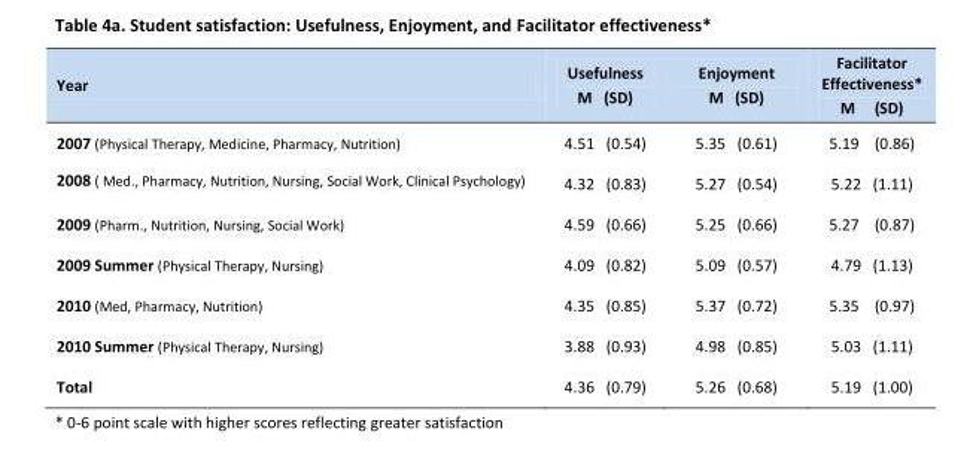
<table><thead><tr><td>Year</td><td>Usefulness M (SD)</td><td>Enjoyment M (SD)</td><td>Facilitator Effectiveness* M (SD)</td></tr></thead><tbody><tr><td>2007 (Physical Therapy, Medicine, Pharmacy, Nutrition)</td><td>4.51 (0.54)</td><td>5.35 (0.61)</td><td>5.19 (0.86)</td></tr><tr><td>2008 ( Med., Pharmacy, Nutrition, Nursing, Social Work, Clinical Psychology)</td><td>4.32 (0.83)</td><td>5.27 (0.54)</td><td>5.22 (1.11)</td></tr><tr><td>2009 (Pharm., Nutrition, Nursing, Social Work)</td><td>4.59 (0.66)</td><td>5.25 (0.66)</td><td>5.27 (0.87)</td></tr><tr><td>2009 Summer (Physical Therapy, Nursing)</td><td>4.09 (0.82)</td><td>5.09 (0.57)</td><td>4.79 (1.13)</td></tr><tr><td>2010 (Med, Pharmacy, Nutrition)</td><td>4.35 (0.85)</td><td>5.37 (0.72)</td><td>5.35 (0.97)</td></tr><tr><td>2010 Summer (Physical Therapy, Nursing)</td><td>3.88 (0.93)</td><td>4.98 (0.85)</td><td>5.03 (1.11)</td></tr><tr><td>Total</td><td>4.36 (0.79)</td><td>5.26 (0.68)</td><td>5.19 (1.00)</td></tr></tbody></table>